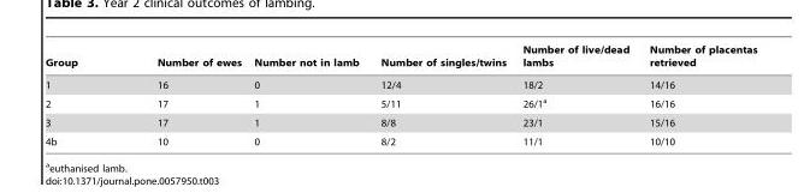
<table><thead><tr><td>Group</td><td>Number of ewes</td><td>Number not in lamb</td><td>Number of singles/twins</td><td>Number of live/dead lambs</td><td>Number of placentas retrieved</td></tr></thead><tbody><tr><td>1</td><td>16</td><td>0</td><td>12/4</td><td>18/2</td><td>14/16</td></tr><tr><td>2</td><td>17</td><td>1</td><td>5/11</td><td>26/1<sup>a</sup></td><td>16/16</td></tr><tr><td>3</td><td>17</td><td>1</td><td>8/8</td><td>23/1</td><td>15/16</td></tr><tr><td>4b</td><td>10</td><td>0</td><td>8/2</td><td>11/1</td><td>10/10</td></tr></tbody></table>